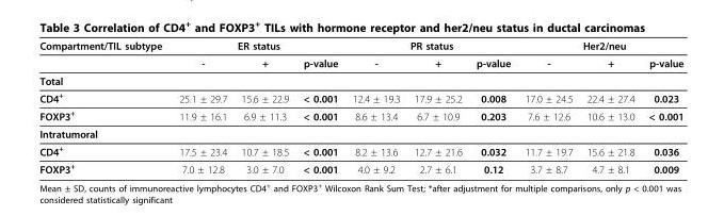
<table><thead><tr><td rowspan="2">Compartment/TIL subtype</td><td colspan="3">ER status</td><td colspan="3">PR status</td><td colspan="3">Her2/neu</td></tr><tr><td>-</td><td>+</td><td>p-value</td><td>-</td><td>+</td><td>p-value</td><td>-</td><td>+</td><td>p-value</td></tr></thead><tbody><tr><td colspan="10">Total</td></tr><tr><td>CD4<sup>+</sup></td><td>25.1 ± 29.7</td><td>15.6 ± 22.9</td><td>&lt; 0.001</td><td>12.4 ± 19.3</td><td>17.9 ± 25.2</td><td>0.008</td><td>17.0 ± 24.5</td><td>22.4 ± 27.4</td><td>0.023</td></tr><tr><td>FOXP3<sup>+</sup></td><td>11.9 ± 16.1</td><td>6.9 ± 11.3</td><td>&lt; 0.001</td><td>8.6 ± 13.4</td><td>6.7 ± 10.9</td><td>0.203</td><td>7.6 ± 12.6</td><td>10.6 ± 13.0</td><td>&lt; 0.001</td></tr><tr><td colspan="10">Intratumoral</td></tr><tr><td>CD4<sup>+</sup></td><td>17.5 ± 23.4</td><td>10.7 ± 18.5</td><td>&lt; 0.001</td><td>8.2 ± 13.6</td><td>12.7 ± 21.6</td><td>0.032</td><td>11.7 ± 19.7</td><td>15.6 ± 21.8</td><td>0.036</td></tr><tr><td>FOXP3<sup>+</sup></td><td>7.0 ± 12.8</td><td>3.0 ± 7.0</td><td>&lt; 0.001</td><td>4.0 ± 9.2</td><td>2.7 ± 6.1</td><td>0.12</td><td>3.7 ± 8.7</td><td>4.7 ± 8.1</td><td>0.009</td></tr></tbody></table>